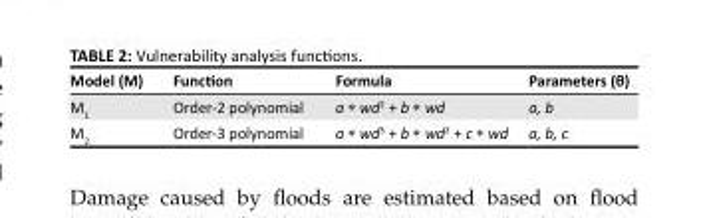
<table><thead><tr><td>Model (M)</td><td>Function</td><td>Formula</td><td>Parameters (θ)</td></tr></thead><tbody><tr><td>M<sub>1</sub></td><td>Order-2 polynomial</td><td>a * wd<sup>2</sup> + b * wd</td><td>a, b</td></tr><tr><td>M<sub>2</sub></td><td>Order-3 polynomial</td><td>a * wd<sup>3</sup> + b * wd<sup>2</sup> + c * wd</td><td>a, b, c</td></tr></tbody></table>